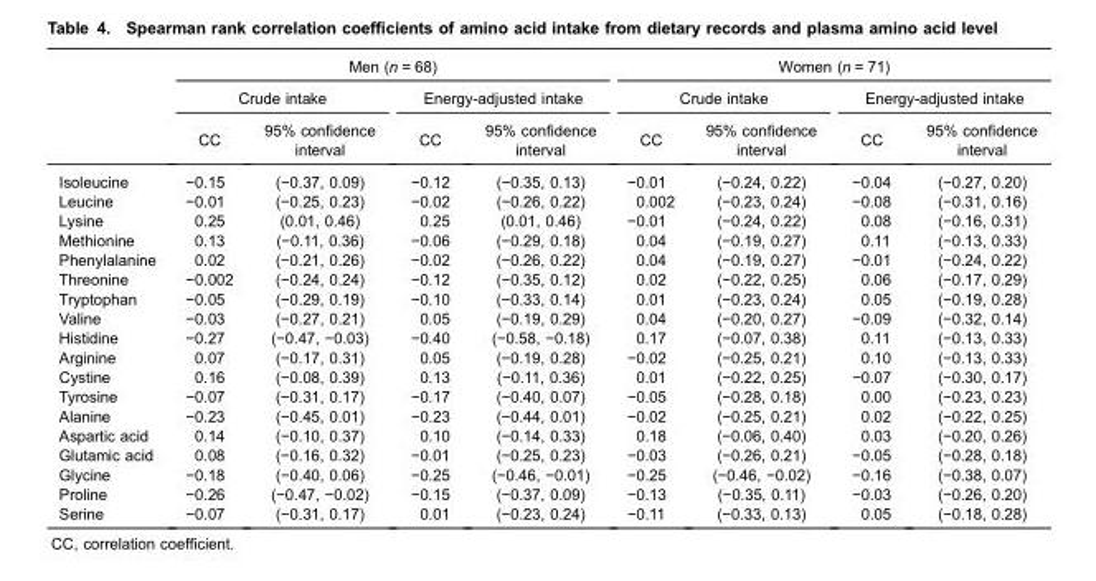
<table><thead><tr><td rowspan="3"></td><td colspan="4">Men (n = 68)</td><td colspan="4">Women (n = 71)</td></tr><tr><td colspan="2">Crude intake</td><td colspan="2">Energy-adjusted intake</td><td colspan="2">Crude intake</td><td colspan="2">Energy-adjusted intake</td></tr><tr><td>CC</td><td>95% confidence interval</td><td>CC</td><td>95% confidence interval</td><td>CC</td><td>95% confidence interval</td><td>CC</td><td>95% confidence interval</td></tr></thead><tbody><tr><td>Isoleucine</td><td>−0.15</td><td>(−0.37, 0.09)</td><td>−0.12</td><td>(−0.35, 0.13)</td><td>−0.01</td><td>(−0.24, 0.22)</td><td>−0.04</td><td>(−0.27, 0.20)</td></tr><tr><td>Leucine</td><td>−0.01</td><td>(−0.25, 0.23)</td><td>−0.02</td><td>(−0.26, 0.22)</td><td>0.002</td><td>(−0.23, 0.24)</td><td>−0.08</td><td>(−0.31, 0.16)</td></tr><tr><td>Lysine</td><td>0.25</td><td>(0.01, 0.46)</td><td>0.25</td><td>(0.01, 0.46)</td><td>−0.01</td><td>(−0.24, 0.22)</td><td>0.08</td><td>(−0.16, 0.31)</td></tr><tr><td>Methionine</td><td>0.13</td><td>(−0.11, 0.36)</td><td>−0.06</td><td>(−0.29, 0.18)</td><td>0.04</td><td>(−0.19, 0.27)</td><td>0.11</td><td>(−0.13, 0.33)</td></tr><tr><td>Phenylalanine</td><td>0.02</td><td>(−0.21, 0.26)</td><td>−0.02</td><td>(−0.26, 0.22)</td><td>0.04</td><td>(−0.19, 0.27)</td><td>−0.01</td><td>(−0.24, 0.22)</td></tr><tr><td>Threonine</td><td>−0.002</td><td>(−0.24, 0.24)</td><td>−0.12</td><td>(−0.35, 0.12)</td><td>0.02</td><td>(−0.22, 0.25)</td><td>0.06</td><td>(−0.17, 0.29)</td></tr><tr><td>Tryptophan</td><td>−0.05</td><td>(−0.29, 0.19)</td><td>−0.10</td><td>(−0.33, 0.14)</td><td>0.01</td><td>(−0.23, 0.24)</td><td>0.05</td><td>(−0.19, 0.28)</td></tr><tr><td>Valine</td><td>−0.03</td><td>(−0.27, 0.21)</td><td>0.05</td><td>(−0.19, 0.29)</td><td>0.04</td><td>(−0.20, 0.27)</td><td>−0.09</td><td>(−0.32, 0.14)</td></tr><tr><td>Histidine</td><td>−0.27</td><td>(−0.47, −0.03)</td><td>−0.40</td><td>(−0.58, −0.18)</td><td>0.17</td><td>(−0.07, 0.38)</td><td>0.11</td><td>(−0.13, 0.33)</td></tr><tr><td>Arginine</td><td>0.07</td><td>(−0.17, 0.31)</td><td>0.05</td><td>(−0.19, 0.28)</td><td>−0.02</td><td>(−0.25, 0.21)</td><td>0.10</td><td>(−0.13, 0.33)</td></tr><tr><td>Cystine</td><td>0.16</td><td>(−0.08, 0.39)</td><td>0.13</td><td>(−0.11, 0.36)</td><td>0.01</td><td>(−0.22, 0.25)</td><td>−0.07</td><td>(−0.30, 0.17)</td></tr><tr><td>Tyrosine</td><td>−0.07</td><td>(−0.31, 0.17)</td><td>−0.17</td><td>(−0.40, 0.07)</td><td>−0.05</td><td>(−0.28, 0.18)</td><td>0.00</td><td>(−0.23, 0.23)</td></tr><tr><td>Alanine</td><td>−0.23</td><td>(−0.45, 0.01)</td><td>−0.23</td><td>(−0.44, 0.01)</td><td>−0.02</td><td>(−0.25, 0.21)</td><td>0.02</td><td>(−0.22, 0.25)</td></tr><tr><td>Aspartic acid</td><td>0.14</td><td>(−0.10, 0.37)</td><td>0.10</td><td>(−0.14, 0.33)</td><td>0.18</td><td>(−0.06, 0.40)</td><td>0.03</td><td>(−0.20, 0.26)</td></tr><tr><td>Glutamic acid</td><td>0.08</td><td>(−0.16, 0.32)</td><td>−0.01</td><td>(−0.25, 0.23)</td><td>−0.03</td><td>(−0.26, 0.21)</td><td>−0.05</td><td>(−0.28, 0.18)</td></tr><tr><td>Glycine</td><td>−0.18</td><td>(−0.40, 0.06)</td><td>−0.25</td><td>(−0.46, −0.01)</td><td>−0.25</td><td>(−0.46, −0.02)</td><td>−0.16</td><td>(−0.38, 0.07)</td></tr><tr><td>Proline</td><td>−0.26</td><td>(−0.47, −0.02)</td><td>−0.15</td><td>(−0.37, 0.09)</td><td>−0.13</td><td>(−0.35, 0.11)</td><td>−0.03</td><td>(−0.26, 0.20)</td></tr><tr><td>Serine</td><td>−0.07</td><td>(−0.31, 0.17)</td><td>0.01</td><td>(−0.23, 0.24)</td><td>−0.11</td><td>(−0.33, 0.13)</td><td>0.05</td><td>(−0.18, 0.28)</td></tr></tbody></table>